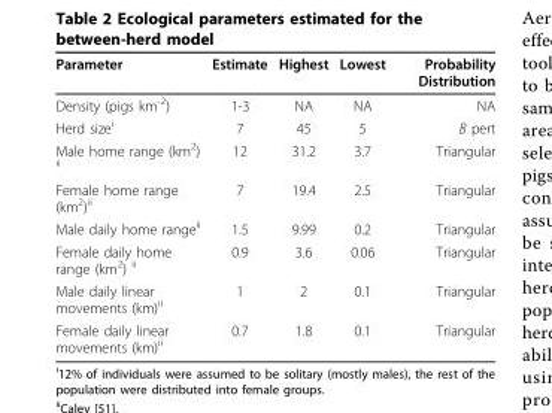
<table><thead><tr><td>Parameter</td><td>Estimate</td><td>Highest</td><td>Lowest</td><td>Probability Distribution</td></tr></thead><tbody><tr><td>Density (pigs km<sup>-2</sup>)</td><td>1-3</td><td>NA</td><td>NA</td><td>NA</td></tr><tr><td>Herd size<sup>i</sup></td><td>7</td><td>45</td><td>5</td><td>B pert</td></tr><tr><td>Male home range (km<sup>2</sup>) <sup>ii</sup></td><td>12</td><td>31.2</td><td>3.7</td><td>Triangular</td></tr><tr><td>Female home range (km<sup>2</sup>)<sup>ii</sup></td><td>7</td><td>19.4</td><td>2.5</td><td>Triangular</td></tr><tr><td>Male daily home range<sup>ii</sup></td><td>1.5</td><td>9.99</td><td>0.2</td><td>Triangular</td></tr><tr><td>Female daily home range (km<sup>2</sup>) <sup>ii</sup></td><td>0.9</td><td>3.6</td><td>0.06</td><td>Triangular</td></tr><tr><td>Male daily linear movements (km)<sup>ii</sup></td><td>1</td><td>2</td><td>0.1</td><td>Triangular</td></tr><tr><td>Female daily linear movements (km)<sup>ii</sup></td><td>0.7</td><td>1.8</td><td>0.1</td><td>Triangular</td></tr></tbody></table>